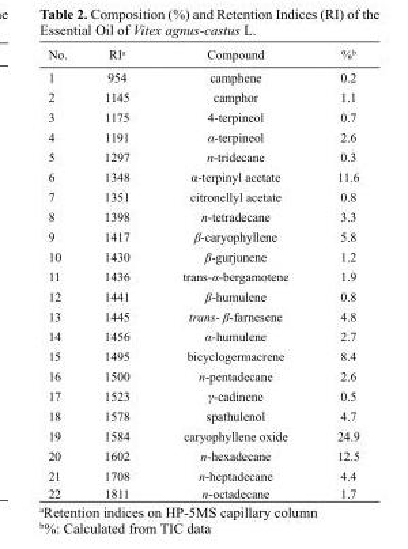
<table><thead><tr><td>No.</td><td>RI<sup>a</sup></td><td>Compound</td><td>%<sup>b</sup></td></tr></thead><tbody><tr><td>1</td><td>954</td><td>camphene</td><td>0.2</td></tr><tr><td>2</td><td>1145</td><td>camphor</td><td>1.1</td></tr><tr><td>3</td><td>1175</td><td>4-terpineol</td><td>0.7</td></tr><tr><td>4</td><td>1191</td><td>α-terpineol</td><td>2.6</td></tr><tr><td>5</td><td>1297</td><td>n-tridecane</td><td>0.3</td></tr><tr><td>6</td><td>1348</td><td>α-terpinyl acetate</td><td>11.6</td></tr><tr><td>7</td><td>1351</td><td>citronellyl acetate</td><td>0.8</td></tr><tr><td>8</td><td>1398</td><td>n-tetradecane</td><td>3.3</td></tr><tr><td>9</td><td>1417</td><td>β-caryophyllene</td><td>5.8</td></tr><tr><td>10</td><td>1430</td><td>β-gurjunene</td><td>1.2</td></tr><tr><td>11</td><td>1436</td><td>trans-α-bergamotene</td><td>1.9</td></tr><tr><td>12</td><td>1441</td><td>β-humulene</td><td>0.8</td></tr><tr><td>13</td><td>1445</td><td>trans- β-farnesene</td><td>4.8</td></tr><tr><td>14</td><td>1456</td><td>α-humulene</td><td>2.7</td></tr><tr><td>15</td><td>1495</td><td>bicyclogermacrene</td><td>8.4</td></tr><tr><td>16</td><td>1500</td><td>n-pentadecane</td><td>2.6</td></tr><tr><td>17</td><td>1523</td><td>γ-cadinene</td><td>0.5</td></tr><tr><td>18</td><td>1578</td><td>spathulenol</td><td>4.7</td></tr><tr><td>19</td><td>1584</td><td>caryophyllene oxide</td><td>24.9</td></tr><tr><td>20</td><td>1602</td><td>n-hexadecane</td><td>12.5</td></tr><tr><td>21</td><td>1708</td><td>n-heptadecane</td><td>4.4</td></tr><tr><td>22</td><td>1811</td><td>n-octadecane</td><td>1.7</td></tr></tbody></table>